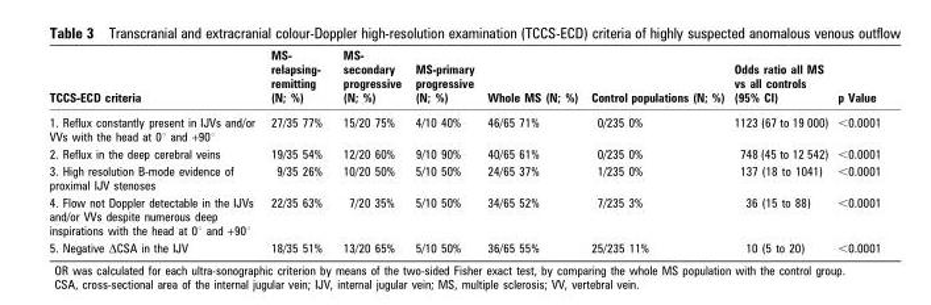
<table><thead><tr><td>TCCS-ECD criteria</td><td>MS- relapsing- remitting (N; %)</td><td>MS- secondary progressive (N; %)</td><td>MS-primary progressive (N; %)</td><td>Whole MS (N; %)</td><td>Control populations (N; %)</td><td>Odds ratio all MS vs all controls (95% CI)</td><td>p Value</td></tr></thead><tbody><tr><td>1. Reflux constantly present in IJVs and/or VVs with the head at 0° and +90°</td><td>27/35 77%</td><td>15/20 75%</td><td>4/10 40%</td><td>46/65 71%</td><td>0/235 0%</td><td>1123 (67 to 19 000)</td><td>&lt;0.0001</td></tr><tr><td>2. Reflux in the deep cerebral veins</td><td>19/35 54%</td><td>12/20 60%</td><td>9/10 90%</td><td>40/65 61%</td><td>0/235 0%</td><td>748 (45 to 12 542)</td><td>&lt;0.0001</td></tr><tr><td>3. High resolution B-mode evidence of proximal IJV stenoses</td><td>9/35 26%</td><td>10/20 50%</td><td>5/10 50%</td><td>24/65 37%</td><td>1/235 0%</td><td>137 (18 to 1041)</td><td>&lt;0.0001</td></tr><tr><td>4. Flow not Doppler detectable in the IJVs and/or VVs despite numerous deep inspirations with the head at 0° and +90°</td><td>22/35 63%</td><td>7/20 35%</td><td>5/10 50%</td><td>34/65 52%</td><td>7/235 3%</td><td>36 (15 to 88)</td><td>&lt;0.0001</td></tr><tr><td>5. Negative ΔCSA in the IJV</td><td>18/35 51%</td><td>13/20 65%</td><td>5/10 50%</td><td>36/65 55%</td><td>25/235 11%</td><td>10 (5 to 20)</td><td>&lt;0.0001</td></tr></tbody></table>